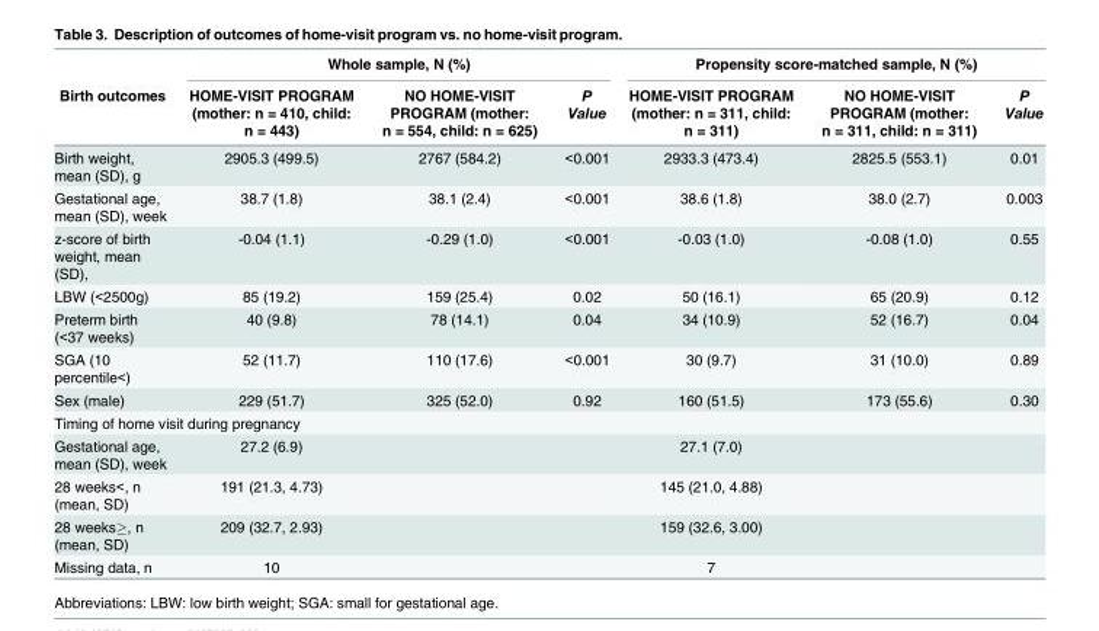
<table><thead><tr><td rowspan="2">Birth outcomes</td><td colspan="3">Whole sample, N (%)</td><td colspan="3">Propensity score-matched sample, N (%)</td></tr><tr><td>HOME-VISIT PROGRAM (mother: n = 410, child: n = 443)</td><td>NO HOME-VISIT PROGRAM (mother: n = 554, child: n = 625)</td><td>P Value</td><td>HOME-VISIT PROGRAM (mother: n = 311, child: n = 311)</td><td>NO HOME-VISIT PROGRAM (mother: n = 311, child: n = 311)</td><td>P Value</td></tr></thead><tbody><tr><td>Birth weight, mean (SD), g</td><td>2905.3 (499.5)</td><td>2767 (584.2)</td><td>&lt;0.001</td><td>2933.3 (473.4)</td><td>2825.5 (553.1)</td><td>0.01</td></tr><tr><td>Gestational age, mean (SD), week</td><td>38.7 (1.8)</td><td>38.1 (2.4)</td><td>&lt;0.001</td><td>38.6 (1.8)</td><td>38.0 (2.7)</td><td>0.003</td></tr><tr><td>z-score of birth weight, mean (SD),</td><td>-0.04 (1.1)</td><td>-0.29 (1.0)</td><td>&lt;0.001</td><td>-0.03 (1.0)</td><td>-0.08 (1.0)</td><td>0.55</td></tr><tr><td>LBW (&lt;2500g)</td><td>85 (19.2)</td><td>159 (25.4)</td><td>0.02</td><td>50 (16.1)</td><td>65 (20.9)</td><td>0.12</td></tr><tr><td>Preterm birth (&lt;37 weeks)</td><td>40 (9.8)</td><td>78 (14.1)</td><td>0.04</td><td>34 (10.9)</td><td>52 (16.7)</td><td>0.04</td></tr><tr><td>SGA (10 percentile&lt;)</td><td>52 (11.7)</td><td>110 (17.6)</td><td>&lt;0.001</td><td>30 (9.7)</td><td>31 (10.0)</td><td>0.89</td></tr><tr><td>Sex (male)</td><td>229 (51.7)</td><td>325 (52.0)</td><td>0.92</td><td>160 (51.5)</td><td>173 (55.6)</td><td>0.30</td></tr><tr><td colspan="7">Timing of home visit during pregnancy</td></tr><tr><td>Gestational age, mean (SD), week</td><td>27.2 (6.9)</td><td></td><td></td><td>27.1 (7.0)</td><td></td><td></td></tr><tr><td>28 weeks&lt;, n (mean, SD)</td><td>191 (21.3, 4.73)</td><td></td><td></td><td>145 (21.0, 4.88)</td><td></td><td></td></tr><tr><td>28 weeks≥, n (mean, SD)</td><td>209 (32.7, 2.93)</td><td></td><td></td><td>159 (32.6, 3.00)</td><td></td><td></td></tr><tr><td>Missing data, n</td><td>10</td><td></td><td></td><td>7</td><td></td><td></td></tr></tbody></table>